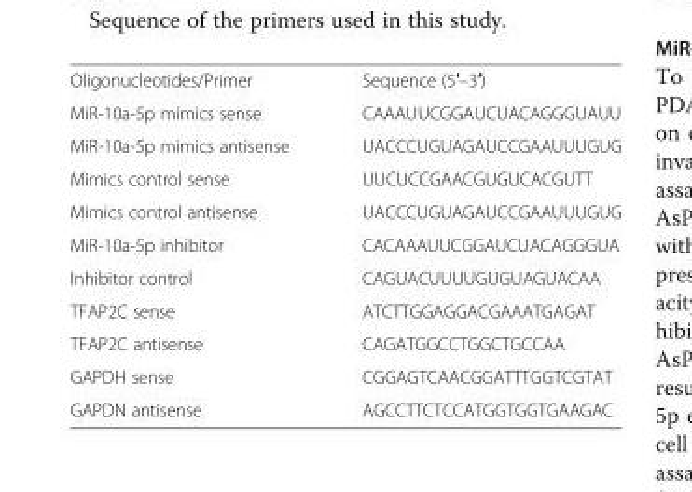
<table><tbody><tr><td>Oligonucleotides/Primer</td><td>Sequence (5′–3′)</td></tr><tr><td>MiR-10a-5p mimics sense</td><td>CAAAUUCGGAUCUACAGGGUAUU</td></tr><tr><td>MiR-10a-5p mimics antisense</td><td>UACCCUGUAGAUCCGAAUUUGUG</td></tr><tr><td>Mimics control sense</td><td>UUCUCCGAACGUGUCACGUTT</td></tr><tr><td>Mimics control antisense</td><td>UACCCUGUAGAUCCGAAUUUGUG</td></tr><tr><td>MiR-10a-5p inhibitor</td><td>CACAAAUUCGGAUCUACAGGGUA</td></tr><tr><td>Inhibitor control</td><td>CAGUACUUUUGUGUAGUACAA</td></tr><tr><td>TFAP2C sense</td><td>ATCTTGGAGGACGAAATGAGAT</td></tr><tr><td>TFAP2C antisense</td><td>CAGATGGCCTGGCTGCCAA</td></tr><tr><td>GAPDH sense</td><td>CGGAGTCAACGGATTTGGTCGTAT</td></tr><tr><td>GAPDN antisense</td><td>AGCCTTCTCCATGGTGGTGAAGAC</td></tr></tbody></table>